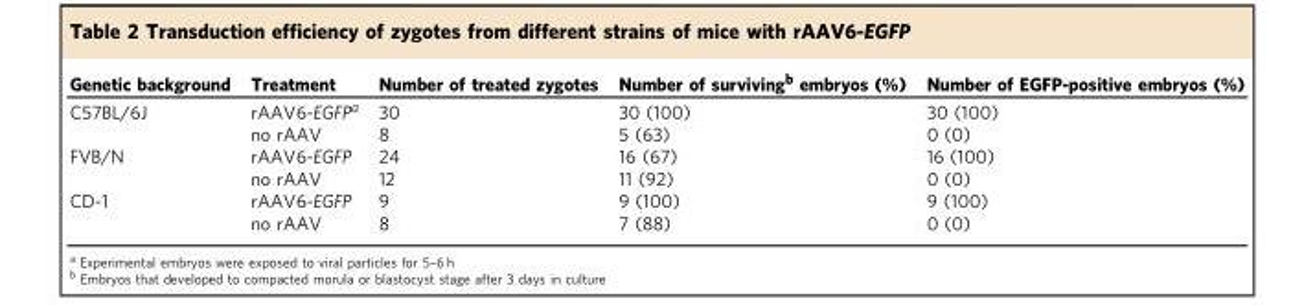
<table><thead><tr><td>Genetic background</td><td>Treatment</td><td>Number of treated zygotes</td><td>Number of surviving<sup>b</sup> embryos (%)</td><td>Number of EGFP-positive embryos (%)</td></tr></thead><tbody><tr><td rowspan="2">C57BL/6J</td><td>rAAV6-EGFP<sup>a</sup></td><td>30</td><td>30 (100)</td><td>30 (100)</td></tr><tr><td>no rAAV</td><td>8</td><td>5 (63)</td><td>0 (0)</td></tr><tr><td rowspan="2">FVB/N</td><td>rAAV6-EGFP</td><td>24</td><td>16 (67)</td><td>16 (100)</td></tr><tr><td>no rAAV</td><td>12</td><td>11 (92)</td><td>0 (0)</td></tr><tr><td rowspan="2">CD-1</td><td>rAAV6-EGFP</td><td>9</td><td>9 (100)</td><td>9 (100)</td></tr><tr><td>no rAAV</td><td>8</td><td>7 (88)</td><td>0 (0)</td></tr></tbody></table>